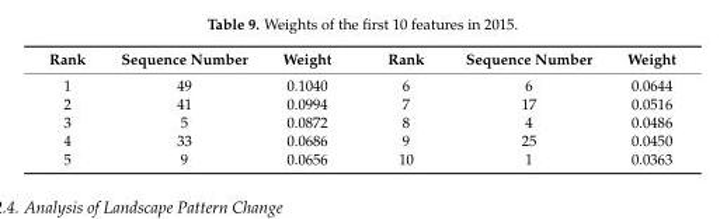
<table><thead><tr><td>Rank</td><td>Sequence Number</td><td>Weight</td><td>Rank</td><td>Sequence Number</td><td>Weight</td></tr></thead><tbody><tr><td>1</td><td>49</td><td>0.1040</td><td>6</td><td>6</td><td>0.0644</td></tr><tr><td>2</td><td>41</td><td>0.0994</td><td>7</td><td>17</td><td>0.0516</td></tr><tr><td>3</td><td>5</td><td>0.0872</td><td>8</td><td>4</td><td>0.0486</td></tr><tr><td>4</td><td>33</td><td>0.0686</td><td>9</td><td>25</td><td>0.0450</td></tr><tr><td>5</td><td>9</td><td>0.0656</td><td>10</td><td>1</td><td>0.0363</td></tr></tbody></table>